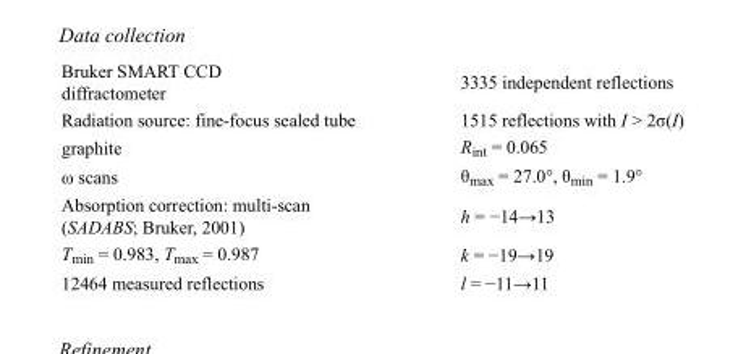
<table><tbody><tr><td>Bruker SMART CCD diffractometer</td><td>3335 independent reflections</td></tr><tr><td>Radiation source: fine-focus sealed tube</td><td>1515 reflections with I &gt; 2σ(I)</td></tr><tr><td>graphite</td><td>R<sub>int</sub> = 0.065</td></tr><tr><td>ω scans</td><td>θ<sub>max</sub> = 27.0°, θ<sub>min</sub> = 1.9°</td></tr><tr><td>Absorption correction: multi-scan (SADABS; Bruker, 2001)</td><td>h = −14→13</td></tr><tr><td>T<sub>min</sub> = 0.983, T<sub>max</sub> = 0.987</td><td>k = −19→19</td></tr><tr><td>12464 measured reflections</td><td>l = −11→11</td></tr></tbody></table>